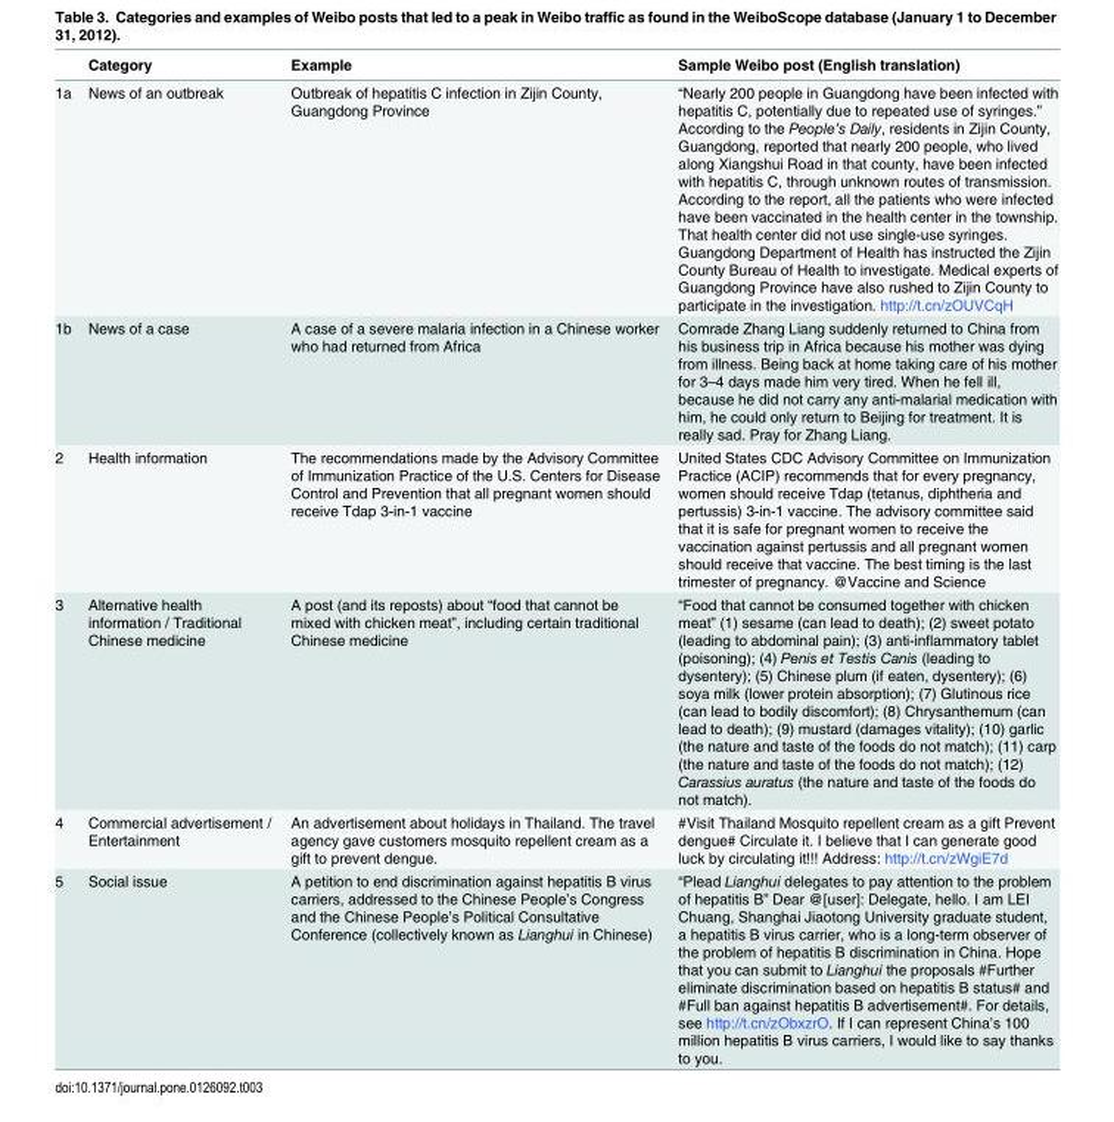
<table><thead><tr><td></td><td>Category</td><td>Example</td><td>Sample Weibo post (English translation)</td></tr></thead><tbody><tr><td>1a</td><td>News of an outbreak</td><td>Outbreak of hepatitis C infection in Zijin County, Guangdong Province</td><td>“Nearly 200 people in Guangdong have been infected with hepatitis C, potentially due to repeated use of syringes.” According to the People’s Daily, residents in Zijin County, Guangdong, reported that nearly 200 people, who lived along Xiangshui Road in that county, have been infected with hepatitis C, through unknown routes of transmission. According to the report, all the patients who were infected have been vaccinated in the health center in the township. That health center did not use single-use syringes. Guangdong Department of Health has instructed the Zijin County Bureau of Health to investigate. Medical experts of Guangdong Province have also rushed to Zijin County to participate in the investigation. http://t.cn/zOUVCqH</td></tr><tr><td>1b</td><td>News of a case</td><td>A case of a severe malaria infection in a Chinese worker who had returned from Africa</td><td>Comrade Zhang Liang suddenly returned to China from his business trip in Africa because his mother was dying from illness. Being back at home taking care of his mother for 3–4 days made him very tired. When he fell ill, because he did not carry any anti-malarial medication with him, he could only return to Beijing for treatment. It is really sad. Pray for Zhang Liang.</td></tr><tr><td>2</td><td>Health information</td><td>The recommendations made by the Advisory Committee of Immunization Practice of the U.S. Centers for Disease Control and Prevention that all pregnant women should receive Tdap 3-in-1 vaccine</td><td>United States CDC Advisory Committee on Immunization Practice (ACIP) recommends that for every pregnancy, women should receive Tdap (tetanus, diphtheria and pertussis) 3-in-1 vaccine. The advisory committee said that it is safe for pregnant women to receive the vaccination against pertussis and all pregnant women should receive that vaccine. The best timing is the last trimester of pregnancy. @Vaccine and Science</td></tr><tr><td>3</td><td>Alternative health information / Traditional Chinese medicine</td><td>A post (and its reposts) about “food that cannot be mixed with chicken meat”, including certain traditional Chinese medicine</td><td>“Food that cannot be consumed together with chicken meat” (1) sesame (can lead to death); (2) sweet potato (leading to abdominal pain); (3) anti-inflammatory tablet (poisoning); (4) Penis et Testis Canis (leading to dysentery); (5) Chinese plum (if eaten, dysentery); (6) soya milk (lower protein absorption); (7) Glutinous rice (can lead to bodily discomfort); (8) Chrysanthemum (can lead to death); (9) mustard (damages vitality); (10) garlic (the nature and taste of the foods do not match); (11) carp (the nature and taste of the foods do not match); (12) Carassius auratus (the nature and taste of the foods do not match).</td></tr><tr><td>4</td><td>Commercial advertisement / Entertainment</td><td>An advertisement about holidays in Thailand. The travel agency gave customers mosquito repellent cream as a gift to prevent dengue.</td><td>#Visit Thailand Mosquito repellent cream as a gift Prevent dengue# Circulate it. I believe that I can generate good luck by circulating it!!! Address: http://t.cn/zWgiE7d</td></tr><tr><td>5</td><td>Social issue</td><td>A petition to end discrimination against hepatitis B virus carriers, addressed to the Chinese People’s Congress and the Chinese People’s Political Consultative Conference (collectively known as Lianghui in Chinese)</td><td>“Plead Lianghui delegates to pay attention to the problem of hepatitis B” Dear @[user]: Delegate, hello. I am LEI Chuang, Shanghai Jiaotong University graduate student, a hepatitis B virus carrier, who is a long-term observer of the problem of hepatitis B discrimination in China. Hope that you can submit to Lianghui the proposals #Further eliminate discrimination based on hepatitis B status# and #Full ban against hepatitis B advertisement#. For details, see http://t.cn/zObxzrO. If I can represent China’s 100 million hepatitis B virus carriers, I would like to say thanks to you.</td></tr></tbody></table>